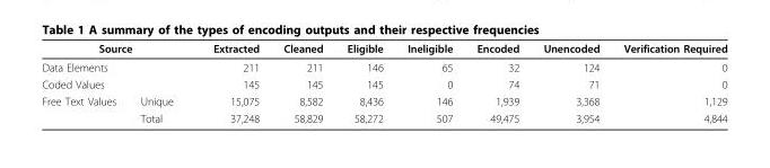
<table><thead><tr><td rowspan="3" colspan="2">Source Data Elements Coded Values</td><td rowspan="4">Extracted 211 145 15,075</td><td rowspan="4">Cleaned 211 145 8,582</td><td rowspan="4">Eligible 146 145 8,436</td><td rowspan="4">Ineligible 65 0 146</td><td rowspan="4">Encoded 32 74 1,939</td><td rowspan="4">Unencoded 124 71 3,368</td><td rowspan="4">Verification Required 0 0 1,129</td></tr><tr></tr><tr></tr><tr><td>Free Text Values</td><td>Unique</td></tr></thead><tbody><tr><td></td><td>Total</td><td>37,248</td><td>58,829</td><td>58,272</td><td>507</td><td>49,475</td><td>3,954</td><td>4,844</td></tr></tbody></table>